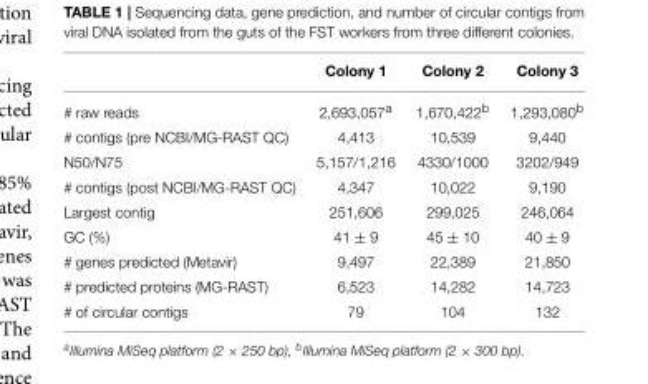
<table><thead><tr><td></td><td>Colony 1</td><td>Colony 2</td><td>Colony 3</td></tr></thead><tbody><tr><td># raw reads</td><td>2,693,057<sup>a</sup></td><td>1,670,422<sup>b</sup></td><td>1,293,080<sup>b</sup></td></tr><tr><td># contigs (pre NCBI/MG-RAST QC)</td><td>4,413</td><td>10,539</td><td>9,440</td></tr><tr><td>N50/N75</td><td>5,157/1,216</td><td>4330/1000</td><td>3202/949</td></tr><tr><td># contigs (post NCBI/MG-RAST QC)</td><td>4,347</td><td>10,022</td><td>9,190</td></tr><tr><td>Largest contig</td><td>251,606</td><td>299,025</td><td>246,064</td></tr><tr><td>GC (%)</td><td>41 ± 9</td><td>45 ± 10</td><td>40 ± 9</td></tr><tr><td># genes predicted (Metavir)</td><td>9,497</td><td>22,389</td><td>21,850</td></tr><tr><td># predicted proteins (MG-RAST)</td><td>6,523</td><td>14,282</td><td>14,723</td></tr><tr><td># of circular contigs</td><td>79</td><td>104</td><td>132</td></tr></tbody></table>